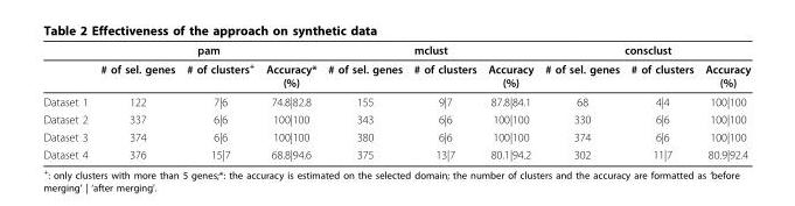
<table><thead><tr><td rowspan="2"></td><td colspan="3">pam</td><td colspan="3">mclust</td><td colspan="3">consclust</td></tr><tr><td># of sel. genes</td><td># of clusters<sup>+</sup></td><td>Accuracy* (%)</td><td># of sel. genes</td><td># of clusters</td><td>Accuracy (%)</td><td># of sel. genes</td><td># of clusters</td><td>Accuracy (%)</td></tr></thead><tbody><tr><td>Dataset 1</td><td>122</td><td>7|6</td><td>74.8|82.8</td><td>155</td><td>9|7</td><td>87.8|84.1</td><td>68</td><td>4|4</td><td>100|100</td></tr><tr><td>Dataset 2</td><td>337</td><td>6|6</td><td>100|100</td><td>343</td><td>6|6</td><td>100|100</td><td>330</td><td>6|6</td><td>100|100</td></tr><tr><td>Dataset 3</td><td>374</td><td>6|6</td><td>100|100</td><td>380</td><td>6|6</td><td>100|100</td><td>374</td><td>6|6</td><td>100|100</td></tr><tr><td>Dataset 4</td><td>376</td><td>15|7</td><td>68.8|94.6</td><td>375</td><td>13|7</td><td>80.1|94.2</td><td>302</td><td>11|7</td><td>80.9|92.4</td></tr></tbody></table>